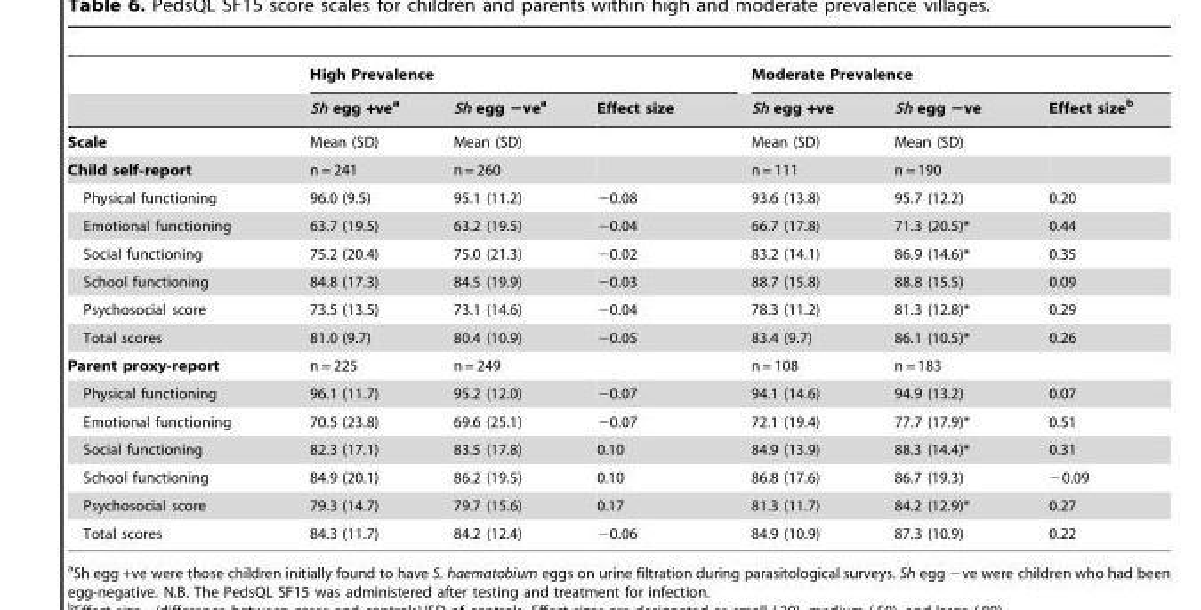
<table><thead><tr><td rowspan="2"></td><td colspan="3">High Prevalence</td><td colspan="3">Moderate Prevalence</td></tr><tr><td>Sh egg +ve<sup>a</sup></td><td>Sh egg −ve<sup>a</sup></td><td>Effect size</td><td>Sh egg +ve</td><td>Sh egg −ve</td><td>Effect size<sup>b</sup></td></tr></thead><tbody><tr><td>Scale</td><td>Mean (SD)</td><td>Mean (SD)</td><td></td><td>Mean (SD)</td><td>Mean (SD)</td><td></td></tr><tr><td>Child self-report</td><td>n = 241</td><td>n = 260</td><td></td><td>n = 111</td><td>n = 190</td><td></td></tr><tr><td>Physical functioning</td><td>96.0 (9.5)</td><td>95.1 (11.2)</td><td>−0.08</td><td>93.6 (13.8)</td><td>95.7 (12.2)</td><td>0.20</td></tr><tr><td>Emotional functioning</td><td>63.7 (19.5)</td><td>63.2 (19.5)</td><td>−0.04</td><td>66.7 (17.8)</td><td>71.3 (20.5)*</td><td>0.44</td></tr><tr><td>Social functioning</td><td>75.2 (20.4)</td><td>75.0 (21.3)</td><td>−0.02</td><td>83.2 (14.1)</td><td>86.9 (14.6)*</td><td>0.35</td></tr><tr><td>School functioning</td><td>84.8 (17.3)</td><td>84.5 (19.9)</td><td>−0.03</td><td>88.7 (15.8)</td><td>88.8 (15.5)</td><td>0.09</td></tr><tr><td>Psychosocial score</td><td>73.5 (13.5)</td><td>73.1 (14.6)</td><td>−0.04</td><td>78.3 (11.2)</td><td>81.3 (12.8)*</td><td>0.29</td></tr><tr><td>Total scores</td><td>81.0 (9.7)</td><td>80.4 (10.9)</td><td>−0.05</td><td>83.4 (9.7)</td><td>86.1 (10.5)*</td><td>0.26</td></tr><tr><td>Parent proxy-report</td><td>n = 225</td><td>n = 249</td><td></td><td>n = 108</td><td>n = 183</td><td></td></tr><tr><td>Physical functioning</td><td>96.1 (11.7)</td><td>95.2 (12.0)</td><td>−0.07</td><td>94.1 (14.6)</td><td>94.9 (13.2)</td><td>0.07</td></tr><tr><td>Emotional functioning</td><td>70.5 (23.8)</td><td>69.6 (25.1)</td><td>−0.07</td><td>72.1 (19.4)</td><td>77.7 (17.9)*</td><td>0.51</td></tr><tr><td>Social functioning</td><td>82.3 (17.1)</td><td>83.5 (17.8)</td><td>0.10</td><td>84.9 (13.9)</td><td>88.3 (14.4)*</td><td>0.31</td></tr><tr><td>School functioning</td><td>84.9 (20.1)</td><td>86.2 (19.5)</td><td>0.10</td><td>86.8 (17.6)</td><td>86.7 (19.3)</td><td>−0.09</td></tr><tr><td>Psychosocial score</td><td>79.3 (14.7)</td><td>79.7 (15.6)</td><td>0.17</td><td>81.3 (11.7)</td><td>84.2 (12.9)*</td><td>0.27</td></tr><tr><td>Total scores</td><td>84.3 (11.7)</td><td>84.2 (12.4)</td><td>−0.06</td><td>84.9 (10.9)</td><td>87.3 (10.9)</td><td>0.22</td></tr></tbody></table>